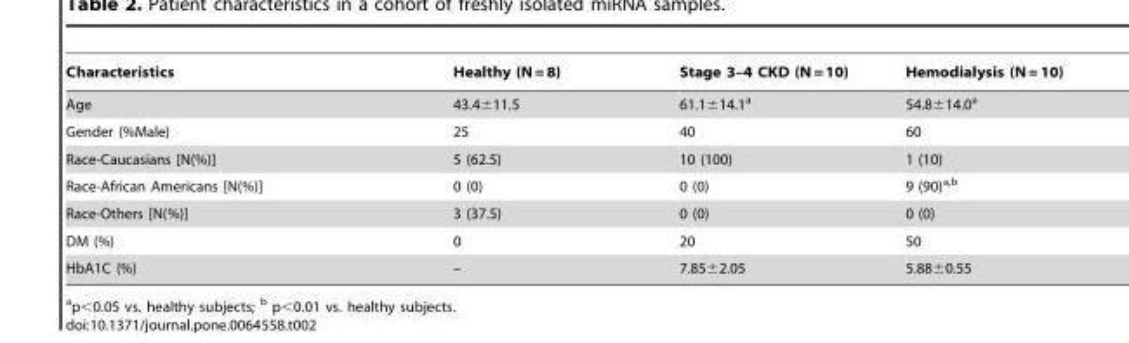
<table><thead><tr><td>Characteristics</td><td>Healthy (N = 8)</td><td>Stage 3–4 CKD (N = 10)</td><td>Hemodialysis (N = 10)</td></tr></thead><tbody><tr><td>Age</td><td>43.4±11.5</td><td>61.1±14.1<sup>a</sup></td><td>54.8±14.0<sup>a</sup></td></tr><tr><td>Gender (%Male)</td><td>25</td><td>40</td><td>60</td></tr><tr><td>Race-Caucasians [N(%)]</td><td>5 (62.5)</td><td>10 (100)</td><td>1 (10)</td></tr><tr><td>Race-African Americans [N(%)]</td><td>0 (0)</td><td>0 (0)</td><td>9 (90)a,b</td></tr><tr><td>Race-Others [N(%)]</td><td>3 (37.5)</td><td>0 (0)</td><td>0 (0)</td></tr><tr><td>DM (%)</td><td>0</td><td>20</td><td>50</td></tr><tr><td>HbA1C (%)</td><td>–</td><td>7.85±2.05</td><td>5.88±0.55</td></tr></tbody></table>